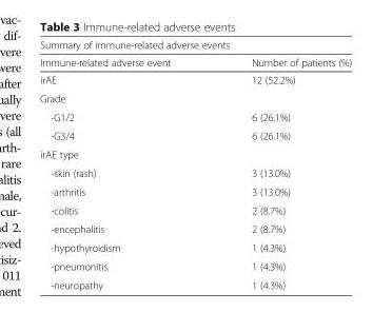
<table><thead><tr><td colspan="2">Summary of immune-related adverse events</td></tr><tr><td>Immune-related adverse event</td><td>Number of patients (%)</td></tr></thead><tbody><tr><td>irAE</td><td>12 (52.2%)</td></tr><tr><td colspan="2">Grade</td></tr><tr><td>-G1/2</td><td>6 (26.1%)</td></tr><tr><td>-G3/4</td><td>6 (26.1%)</td></tr><tr><td colspan="2">irAE type</td></tr><tr><td>-skin (rash)</td><td>3 (13.0%)</td></tr><tr><td>-arthritis</td><td>3 (13.0%)</td></tr><tr><td>-colitis</td><td>2 (8.7%)</td></tr><tr><td>-encephalitis</td><td>2 (8.7%)</td></tr><tr><td>-hypothyroidism</td><td>1 (4.3%)</td></tr><tr><td>-pneumonitis</td><td>1 (4.3%)</td></tr><tr><td>-neuropathy</td><td>1 (4.3%)</td></tr></tbody></table>